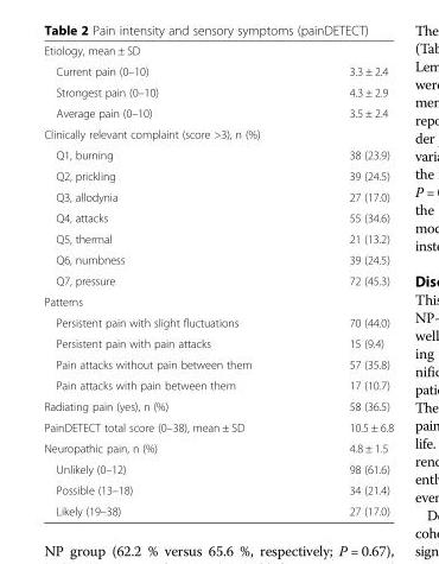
<table><tbody><tr><td colspan="2">Etiology, mean ± SD</td></tr><tr><td>Current pain (0–10)</td><td>3.3 ± 2.4</td></tr><tr><td>Strongest pain (0–10)</td><td>4.3 ± 2.9</td></tr><tr><td>Average pain (0–10)</td><td>3.5 ± 2.4</td></tr><tr><td colspan="2">Clinically relevant complaint (score &gt;3), n (%)</td></tr><tr><td>Q1, burning</td><td>38 (23.9)</td></tr><tr><td>Q2, prickling</td><td>39 (24.5)</td></tr><tr><td>Q3, allodynia</td><td>27 (17.0)</td></tr><tr><td>Q4, attacks</td><td>55 (34.6)</td></tr><tr><td>Q5, thermal</td><td>21 (13.2)</td></tr><tr><td>Q6, numbness</td><td>39 (24.5)</td></tr><tr><td>Q7, pressure</td><td>72 (45.3)</td></tr><tr><td colspan="2">Patterns</td></tr><tr><td>Persistent pain with slight fluctuations</td><td>70 (44.0)</td></tr><tr><td>Persistent pain with pain attacks</td><td>15 (9.4)</td></tr><tr><td>Pain attacks without pain between them</td><td>57 (35.8)</td></tr><tr><td>Pain attacks with pain between them</td><td>17 (10.7)</td></tr><tr><td>Radiating pain (yes), n (%)</td><td>58 (36.5)</td></tr><tr><td>PainDETECT total score (0–38), mean ± SD</td><td>10.5 ± 6.8</td></tr><tr><td>Neuropathic pain, n (%)</td><td>4.8 ± 1.5</td></tr><tr><td>Unlikely (0–12)</td><td>98 (61.6)</td></tr><tr><td>Possible (13–18)</td><td>34 (21.4)</td></tr><tr><td>Likely (19–38)</td><td>27 (17.0)</td></tr></tbody></table>